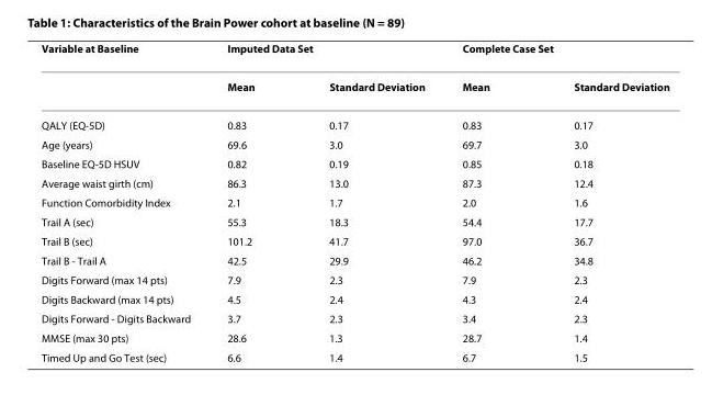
<table><thead><tr><td rowspan="2">Variable at Baseline</td><td colspan="2">Imputed Data Set</td><td colspan="2">Complete Case Set</td></tr><tr><td>Mean</td><td>Standard Deviation</td><td>Mean</td><td>Standard Deviation</td></tr></thead><tbody><tr><td>QALY (EQ-5D)</td><td>0.83</td><td>0.17</td><td>0.83</td><td>0.17</td></tr><tr><td>Age (years)</td><td>69.6</td><td>3.0</td><td>69.7</td><td>3.0</td></tr><tr><td>Baseline EQ-5D HSUV</td><td>0.82</td><td>0.19</td><td>0.85</td><td>0.18</td></tr><tr><td>Average waist girth (cm)</td><td>86.3</td><td>13.0</td><td>87.3</td><td>12.4</td></tr><tr><td>Function Comorbidity Index</td><td>2.1</td><td>1.7</td><td>2.0</td><td>1.6</td></tr><tr><td>Trail A (sec)</td><td>55.3</td><td>18.3</td><td>54.4</td><td>17.7</td></tr><tr><td>Trail B (sec)</td><td>101.2</td><td>41.7</td><td>97.0</td><td>36.7</td></tr><tr><td>Trail B - Trail A</td><td>42.5</td><td>29.9</td><td>46.2</td><td>34.8</td></tr><tr><td>Digits Forward (max 14 pts)</td><td>7.9</td><td>2.3</td><td>7.9</td><td>2.3</td></tr><tr><td>Digits Backward (max 14 pts)</td><td>4.5</td><td>2.4</td><td>4.3</td><td>2.4</td></tr><tr><td>Digits Forward - Digits Backward</td><td>3.7</td><td>2.3</td><td>3.4</td><td>2.3</td></tr><tr><td>MMSE (max 30 pts)</td><td>28.6</td><td>1.3</td><td>28.7</td><td>1.4</td></tr><tr><td>Timed Up and Go Test (sec)</td><td>6.6</td><td>1.4</td><td>6.7</td><td>1.5</td></tr></tbody></table>